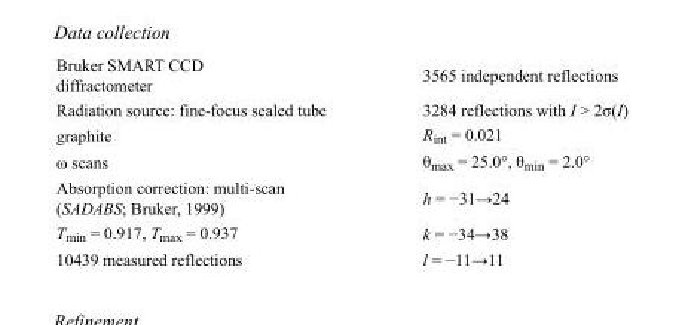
<table><tbody><tr><td>Bruker SMART CCD diffractometer</td><td>3565 independent reflections</td></tr><tr><td>Radiation source: fine-focus sealed tube</td><td>3284 reflections with I &gt; 2σ(I)</td></tr><tr><td>graphite</td><td>R<sub>int</sub> = 0.021</td></tr><tr><td>ω scans</td><td>θ<sub>max</sub> = 25.0°, θ<sub>min</sub> = 2.0°</td></tr><tr><td>Absorption correction: multi-scan (SADABS; Bruker, 1999)</td><td>h = −31→24</td></tr><tr><td>T<sub>min</sub> = 0.917, T<sub>max</sub> = 0.937</td><td>k = −34→38</td></tr><tr><td>10439 measured reflections</td><td>l = −11→11</td></tr></tbody></table>